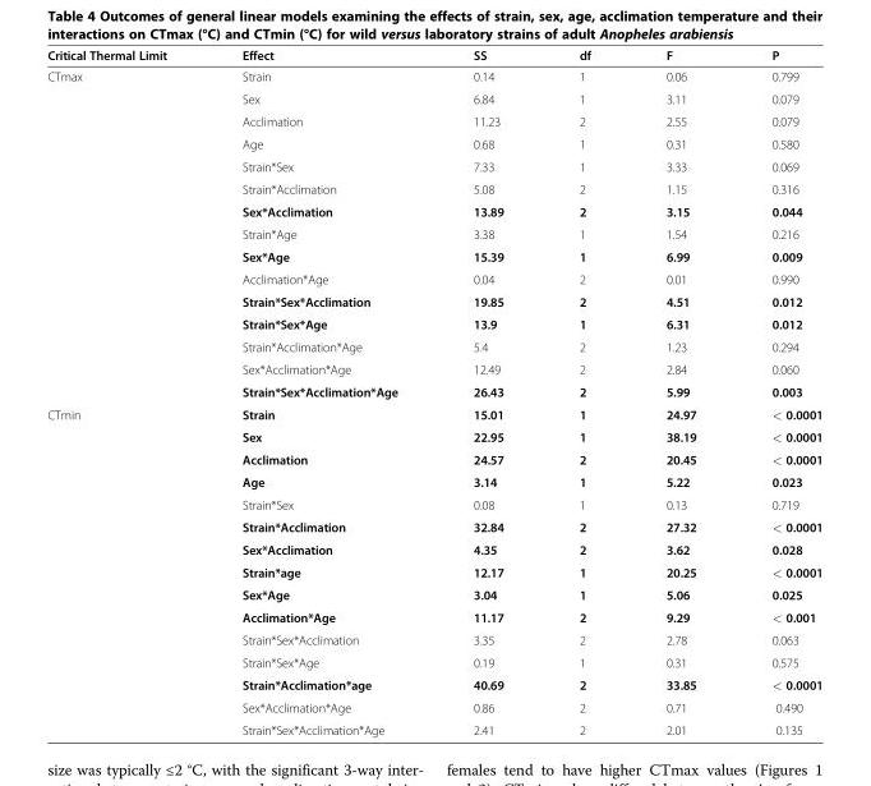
<table><thead><tr><td>Critical Thermal Limit</td><td>Effect</td><td>SS</td><td>df</td><td>F</td><td>P</td></tr></thead><tbody><tr><td rowspan="15">CTmax</td><td>Strain</td><td>0.14</td><td>1</td><td>0.06</td><td>0.799</td></tr><tr><td>Sex</td><td>6.84</td><td>1</td><td>3.11</td><td>0.079</td></tr><tr><td>Acclimation</td><td>11.23</td><td>2</td><td>2.55</td><td>0.079</td></tr><tr><td>Age</td><td>0.68</td><td>1</td><td>0.31</td><td>0.580</td></tr><tr><td>Strain*Sex</td><td>7.33</td><td>1</td><td>3.33</td><td>0.069</td></tr><tr><td>Strain*Acclimation</td><td>5.08</td><td>2</td><td>1.15</td><td>0.316</td></tr><tr><td>Sex*Acclimation</td><td>13.89</td><td>2</td><td>3.15</td><td>0.044</td></tr><tr><td>Strain*Age</td><td>3.38</td><td>1</td><td>1.54</td><td>0.216</td></tr><tr><td>Sex*Age</td><td>15.39</td><td>1</td><td>6.99</td><td>0.009</td></tr><tr><td>Acclimation*Age</td><td>0.04</td><td>2</td><td>0.01</td><td>0.990</td></tr><tr><td>Strain*Sex*Acclimation</td><td>19.85</td><td>2</td><td>4.51</td><td>0.012</td></tr><tr><td>Strain*Sex*Age</td><td>13.9</td><td>1</td><td>6.31</td><td>0.012</td></tr><tr><td>Strain*Acclimation*Age</td><td>5.4</td><td>2</td><td>1.23</td><td>0.294</td></tr><tr><td>Sex*Acclimation*Age</td><td>12.49</td><td>2</td><td>2.84</td><td>0.060</td></tr><tr><td>Strain*Sex*Acclimation*Age</td><td>26.43</td><td>2</td><td>5.99</td><td>0.003</td></tr><tr><td rowspan="15">CTmin</td><td>Strain</td><td>15.01</td><td>1</td><td>24.97</td><td>&lt; 0.0001</td></tr><tr><td>Sex</td><td>22.95</td><td>1</td><td>38.19</td><td>&lt; 0.0001</td></tr><tr><td>Acclimation</td><td>24.57</td><td>2</td><td>20.45</td><td>&lt; 0.0001</td></tr><tr><td>Age</td><td>3.14</td><td>1</td><td>5.22</td><td>0.023</td></tr><tr><td>Strain*Sex</td><td>0.08</td><td>1</td><td>0.13</td><td>0.719</td></tr><tr><td>Strain*Acclimation</td><td>32.84</td><td>2</td><td>27.32</td><td>&lt; 0.0001</td></tr><tr><td>Sex*Acclimation</td><td>4.35</td><td>2</td><td>3.62</td><td>0.028</td></tr><tr><td>Strain*age</td><td>12.17</td><td>1</td><td>20.25</td><td>&lt; 0.0001</td></tr><tr><td>Sex*Age</td><td>3.04</td><td>1</td><td>5.06</td><td>0.025</td></tr><tr><td>Acclimation*Age</td><td>11.17</td><td>2</td><td>9.29</td><td>&lt; 0.001</td></tr><tr><td>Strain*Sex*Acclimation</td><td>3.35</td><td>2</td><td>2.78</td><td>0.063</td></tr><tr><td>Strain*Sex*Age</td><td>0.19</td><td>1</td><td>0.31</td><td>0.575</td></tr><tr><td>Strain*Acclimation*age</td><td>40.69</td><td>2</td><td>33.85</td><td>&lt; 0.0001</td></tr><tr><td>Sex*Acclimation*Age</td><td>0.86</td><td>2</td><td>0.71</td><td>0.490</td></tr><tr><td>Strain*Sex*Acclimation*Age</td><td>2.41</td><td>2</td><td>2.01</td><td>0.135</td></tr></tbody></table>